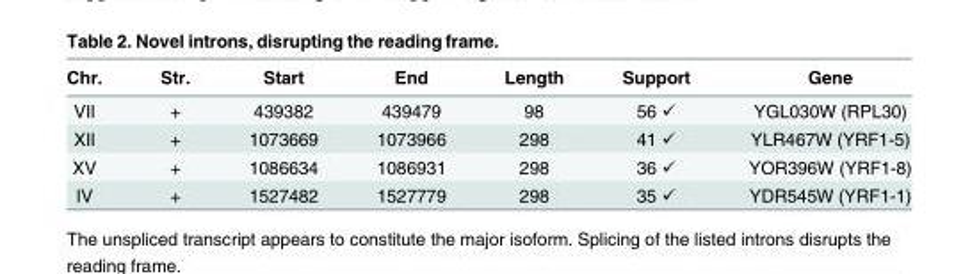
<table><thead><tr><td>Chr.</td><td>Str.</td><td>Start</td><td>End</td><td>Length</td><td>Support</td><td>Gene</td></tr></thead><tbody><tr><td>VII</td><td>+</td><td>439382</td><td>439479</td><td>98</td><td>56 ✓</td><td>YGL030W (RPL30)</td></tr><tr><td>XII</td><td>+</td><td>1073669</td><td>1073966</td><td>298</td><td>41 ✓</td><td>YLR467W (YRF1-5)</td></tr><tr><td>XV</td><td>+</td><td>1086634</td><td>1086931</td><td>298</td><td>36 ✓</td><td>YOR396W (YRF1-8)</td></tr><tr><td>IV</td><td>+</td><td>1527482</td><td>1527779</td><td>298</td><td>35 ✓</td><td>YDR545W (YRF1-1)</td></tr></tbody></table>